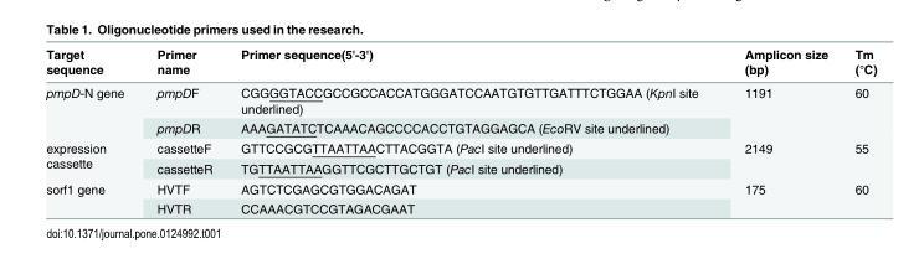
<table><thead><tr><td>Target sequence</td><td>Primer name</td><td>Primer sequence(5&#x27;-3&#x27;)</td><td>Amplicon size (bp)</td><td>Tm (°C)</td></tr></thead><tbody><tr><td rowspan="2">pmpD-N gene</td><td>pmpDF</td><td>CGGGGTACCGCCGCCACCATGGGATCCAATGTGTTGATTTCTGGAA (KpnI site underlined)</td><td rowspan="2">1191</td><td rowspan="2">60</td></tr><tr><td>pmpDR</td><td>AAAGATATCTCAAACAGCCCCACCTGTAGGAGCA (EcoRV site underlined)</td></tr><tr><td rowspan="2">expression cassette</td><td>cassetteF</td><td>GTTCCGCGTTAATTAACTTACGGTA (PacI site underlined)</td><td rowspan="2">2149</td><td rowspan="2">55</td></tr><tr><td>cassetteR</td><td>TGTTAATTAAGGTTCGCTTGCTGT (PacI site underlined)</td></tr><tr><td rowspan="2">sorf1 gene</td><td>HVTF</td><td>AGTCTCGAGCGTGGACAGAT</td><td rowspan="2">175</td><td rowspan="2">60</td></tr><tr><td>HVTR</td><td>CCAAACGTCCGTAGACGAAT</td></tr></tbody></table>